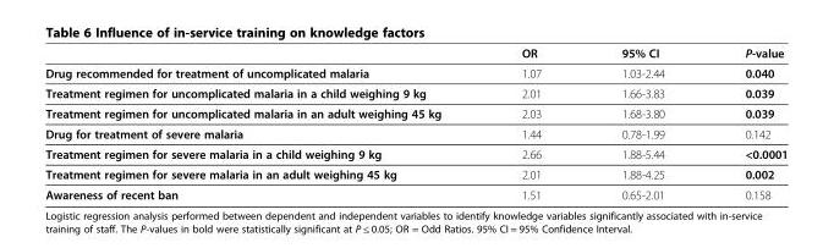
<table><thead><tr><td></td><td>OR</td><td>95% CI</td><td>P-value</td></tr></thead><tbody><tr><td>Drug recommended for treatment of uncomplicated malaria</td><td>1.07</td><td>1.03-2.44</td><td>0.040</td></tr><tr><td>Treatment regimen for uncomplicated malaria in a child weighing 9 kg</td><td>2.01</td><td>1.66-3.83</td><td>0.039</td></tr><tr><td>Treatment regimen for uncomplicated malaria in an adult weighing 45 kg</td><td>2.03</td><td>1.68-3.80</td><td>0.039</td></tr><tr><td>Drug for treatment of severe malaria</td><td>1.44</td><td>0.78-1.99</td><td>0.142</td></tr><tr><td>Treatment regimen for severe malaria in a child weighing 9 kg</td><td>2.66</td><td>1.88-5.44</td><td>&lt;0.0001</td></tr><tr><td>Treatment regimen for severe malaria in an adult weighing 45 kg</td><td>2.01</td><td>1.88-4.25</td><td>0.002</td></tr><tr><td>Awareness of recent ban</td><td>1.51</td><td>0.65-2.01</td><td>0.158</td></tr></tbody></table>